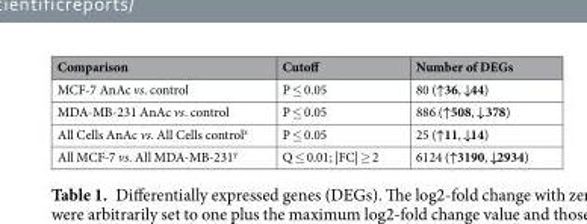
<table><thead><tr><td>Comparison</td><td>Cutoff</td><td>Number of DEGs</td></tr></thead><tbody><tr><td>MCF-7 AnAc vs. control</td><td>P ≤ 0.05</td><td>80 (↑36, ↓44)</td></tr><tr><td>MDA-MB-231 AnAc vs. control</td><td>P ≤ 0.05</td><td>886 (↑508, ↓ 378)</td></tr><tr><td>All Cells AnAc vs. All Cells control<sup>z</sup></td><td>P ≤ 0.05</td><td>25 (↑11, ↓14)</td></tr><tr><td>All MCF-7 vs. All MDA-MB-231<sup>y</sup></td><td>Q ≤ 0.01; |FC| ≥ 2</td><td>6124 (↑3190, ↓2934)</td></tr></tbody></table>